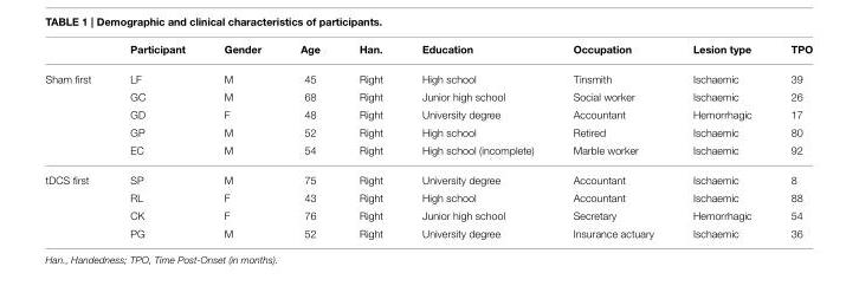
<table><thead><tr><td></td><td>Participant</td><td>Gender</td><td>Age</td><td>Han.</td><td>Education</td><td>Occupation</td><td>Lesion type</td><td>TPO</td></tr></thead><tbody><tr><td rowspan="5">Sham first</td><td>LF</td><td>M</td><td>45</td><td>Right</td><td>High school</td><td>Tinsmith</td><td>Ischaemic</td><td>39</td></tr><tr><td>GC</td><td>M</td><td>68</td><td>Right</td><td>Junior high school</td><td>Social worker</td><td>Ischaemic</td><td>26</td></tr><tr><td>GD</td><td>F</td><td>48</td><td>Right</td><td>University degree</td><td>Accountant</td><td>Hemorrhagic</td><td>17</td></tr><tr><td>GP</td><td>M</td><td>52</td><td>Right</td><td>High school</td><td>Retired</td><td>Ischaemic</td><td>80</td></tr><tr><td>EC</td><td>M</td><td>54</td><td>Right</td><td>High school (incomplete)</td><td>Marble worker</td><td>Ischaemic</td><td>92</td></tr><tr><td rowspan="4">tDCS first</td><td>SP</td><td>M</td><td>75</td><td>Right</td><td>University degree</td><td>Accountant</td><td>Ischaemic</td><td>8</td></tr><tr><td>RL</td><td>F</td><td>43</td><td>Right</td><td>High school</td><td>Accountant</td><td>Ischaemic</td><td>88</td></tr><tr><td>CK</td><td>F</td><td>76</td><td>Right</td><td>Junior high school</td><td>Secretary</td><td>Hemorrhagic</td><td>54</td></tr><tr><td>PG</td><td>M</td><td>52</td><td>Right</td><td>University degree</td><td>Insurance actuary</td><td>Ischaemic</td><td>36</td></tr></tbody></table>